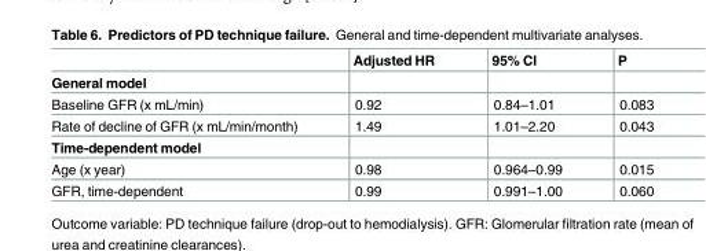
<table><thead><tr><td></td><td>Adjusted HR</td><td>95% CI</td><td>P</td></tr></thead><tbody><tr><td colspan="4">General model</td></tr><tr><td>Baseline GFR (x mL/min)</td><td>0.92</td><td>0.84–1.01</td><td>0.083</td></tr><tr><td>Rate of decline of GFR (x mL/min/month)</td><td>1.49</td><td>1.01–2.20</td><td>0.043</td></tr><tr><td colspan="4">Time-dependent model</td></tr><tr><td>Age (x year)</td><td>0.98</td><td>0.964–0.99</td><td>0.015</td></tr><tr><td>GFR, time-dependent</td><td>0.99</td><td>0.991–1.00</td><td>0.060</td></tr></tbody></table>